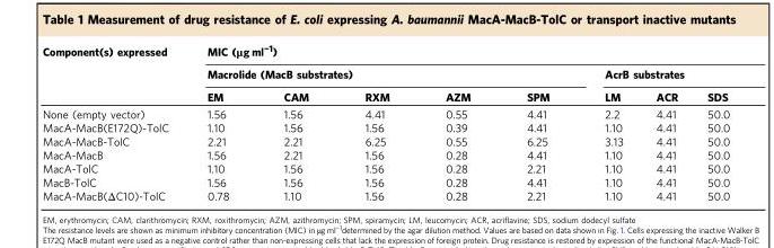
<table><thead><tr><td rowspan="3">Component(s) expressed</td><td colspan="8">MIC (μg ml<sup>−1</sup>)</td></tr><tr><td colspan="5">Macrolide (MacB substrates)</td><td colspan="3">AcrB substrates</td></tr><tr><td>EM</td><td>CAM</td><td>RXM</td><td>AZM</td><td>SPM</td><td>LM</td><td>ACR</td><td>SDS</td></tr></thead><tbody><tr><td>None (empty vector)</td><td>1.56</td><td>1.56</td><td>4.41</td><td>0.55</td><td>4.41</td><td>2.2</td><td>4.41</td><td>50.0</td></tr><tr><td>MacA-MacB(E172Q)-TolC</td><td>1.10</td><td>1.56</td><td>1.56</td><td>0.39</td><td>4.41</td><td>1.10</td><td>4.41</td><td>50.0</td></tr><tr><td>MacA-MacB-TolC</td><td>2.21</td><td>2.21</td><td>6.25</td><td>0.55</td><td>6.25</td><td>3.13</td><td>4.41</td><td>50.0</td></tr><tr><td>MacA-MacB</td><td>1.56</td><td>2.21</td><td>1.56</td><td>0.28</td><td>4.41</td><td>1.10</td><td>4.41</td><td>50.0</td></tr><tr><td>MacA-TolC</td><td>1.10</td><td>1.56</td><td>1.56</td><td>0.28</td><td>2.21</td><td>1.10</td><td>4.41</td><td>50.0</td></tr><tr><td>MacB-TolC</td><td>1.56</td><td>1.56</td><td>1.56</td><td>0.28</td><td>4.41</td><td>1.10</td><td>4.41</td><td>50.0</td></tr><tr><td>MacA-MacB(ΔC10)-TolC</td><td>0.78</td><td>1.10</td><td>1.56</td><td>0.28</td><td>2.21</td><td>1.10</td><td>4.41</td><td>50.0</td></tr></tbody></table>